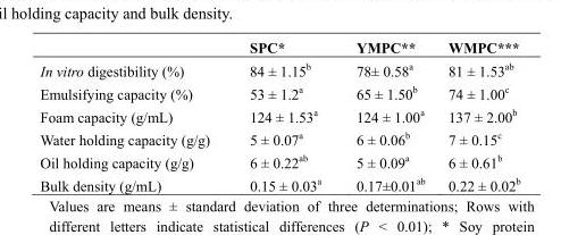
<table><thead><tr><td></td><td>SPC*</td><td>YMPC**</td><td>WMPC***</td></tr></thead><tbody><tr><td>In vitro digestibility (%)</td><td>84 ± 1.15<sup>b</sup></td><td>78± 0.58<sup>a</sup></td><td>81 ± 1.53<sup>ab</sup></td></tr><tr><td>Emulsifying capacity (%)</td><td>53 ± 1.2<sup>a</sup></td><td>65 ± 1.50<sup>b</sup></td><td>74 ± 1.00<sup>c</sup></td></tr><tr><td>Foam capacity (g/mL)</td><td>124 ± 1.53<sup>a</sup></td><td>124 ± 1.00<sup>a</sup></td><td>137 ± 2.00<sup>b</sup></td></tr><tr><td>Water holding capacity (g/g)</td><td>5 ± 0.07<sup>a</sup></td><td>6 ± 0.06<sup>b</sup></td><td>7 ± 0.15<sup>c</sup></td></tr><tr><td>Oil holding capacity (g/g)</td><td>6 ± 0.22<sup>ab</sup></td><td>5 ± 0.09<sup>a</sup></td><td>6 ± 0.61<sup>b</sup></td></tr><tr><td>Bulk density (g/mL)</td><td>0.15 ± 0.03<sup>a</sup></td><td>0.17±0.01<sup>ab</sup></td><td>0.22 ± 0.02<sup>b</sup></td></tr></tbody></table>